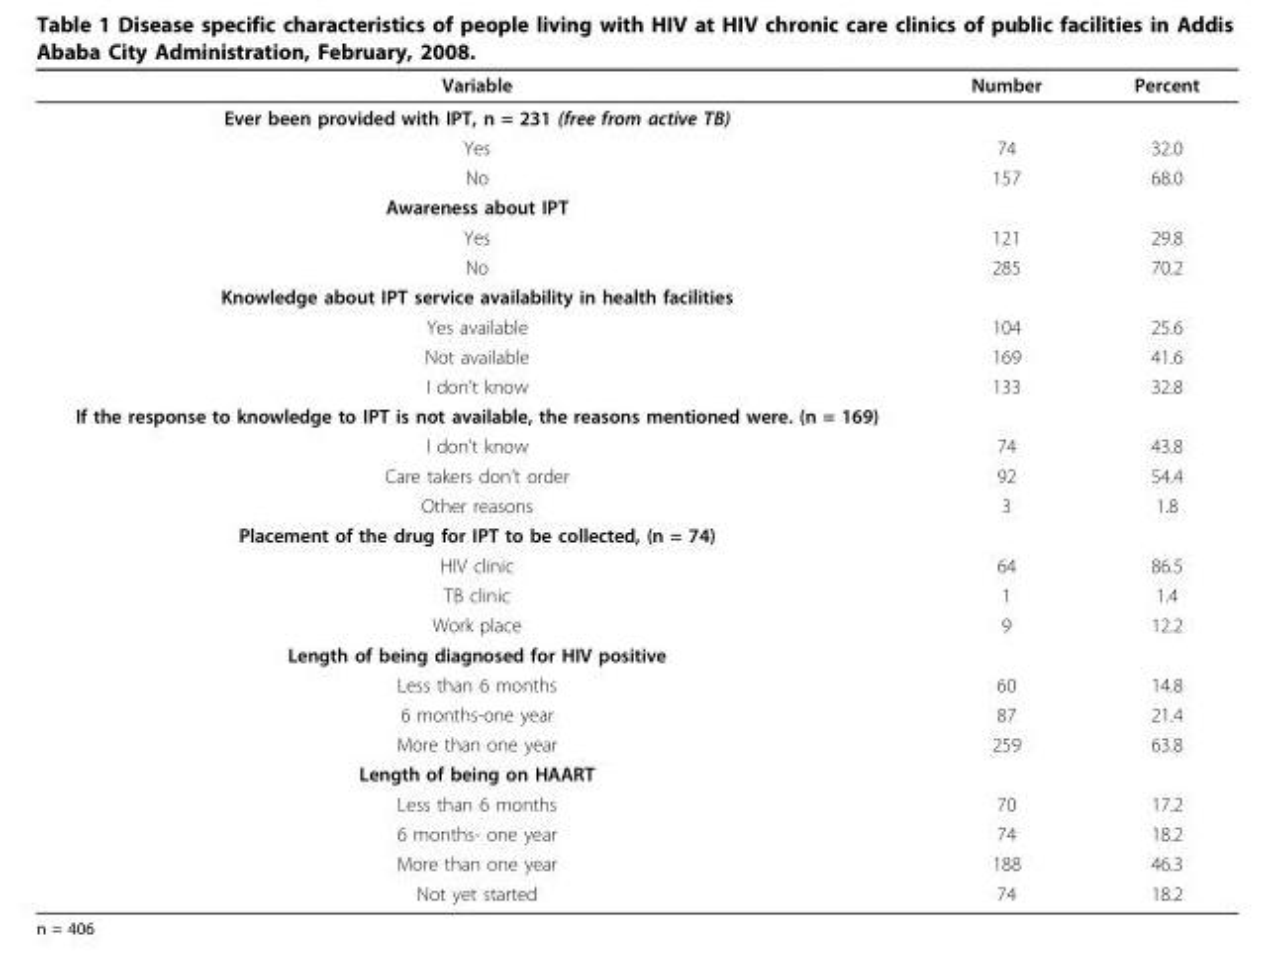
<table><thead><tr><td>Variable</td><td>Number</td><td>Percent</td></tr></thead><tbody><tr><td colspan="3">Ever been provided with IPT, n = 231 (free from active TB)</td></tr><tr><td>Yes</td><td>74</td><td>32.0</td></tr><tr><td>No</td><td>157</td><td>68.0</td></tr><tr><td colspan="3">Awareness about IPT</td></tr><tr><td>Yes</td><td>121</td><td>29.8</td></tr><tr><td>No</td><td>285</td><td>70.2</td></tr><tr><td colspan="3">Knowledge about IPT service availability in health facilities</td></tr><tr><td>Yes available</td><td>104</td><td>25.6</td></tr><tr><td>Not available</td><td>169</td><td>41.6</td></tr><tr><td>I don’t know</td><td>133</td><td>32.8</td></tr><tr><td colspan="3">If the response to knowledge to IPT is not available, the reasons mentioned were. (n = 169)</td></tr><tr><td>I don’t know</td><td>74</td><td>43.8</td></tr><tr><td>Care takers don’t order</td><td>92</td><td>54.4</td></tr><tr><td>Other reasons</td><td>3</td><td>1.8</td></tr><tr><td colspan="3">Placement of the drug for IPT to be collected, (n = 74)</td></tr><tr><td>HIV clinic</td><td>64</td><td>86.5</td></tr><tr><td>TB clinic</td><td>1</td><td>1.4</td></tr><tr><td>Work place</td><td>9</td><td>12.2</td></tr><tr><td colspan="3">Length of being diagnosed for HIV positive</td></tr><tr><td>Less than 6 months</td><td>60</td><td>14.8</td></tr><tr><td>6 months-one year</td><td>87</td><td>21.4</td></tr><tr><td>More than one year</td><td>259</td><td>63.8</td></tr><tr><td colspan="3">Length of being on HAART</td></tr><tr><td>Less than 6 months</td><td>70</td><td>17.2</td></tr><tr><td>6 months- one year</td><td>74</td><td>18.2</td></tr><tr><td>More than one year</td><td>188</td><td>46.3</td></tr><tr><td>Not yet started</td><td>74</td><td>18.2</td></tr></tbody></table>